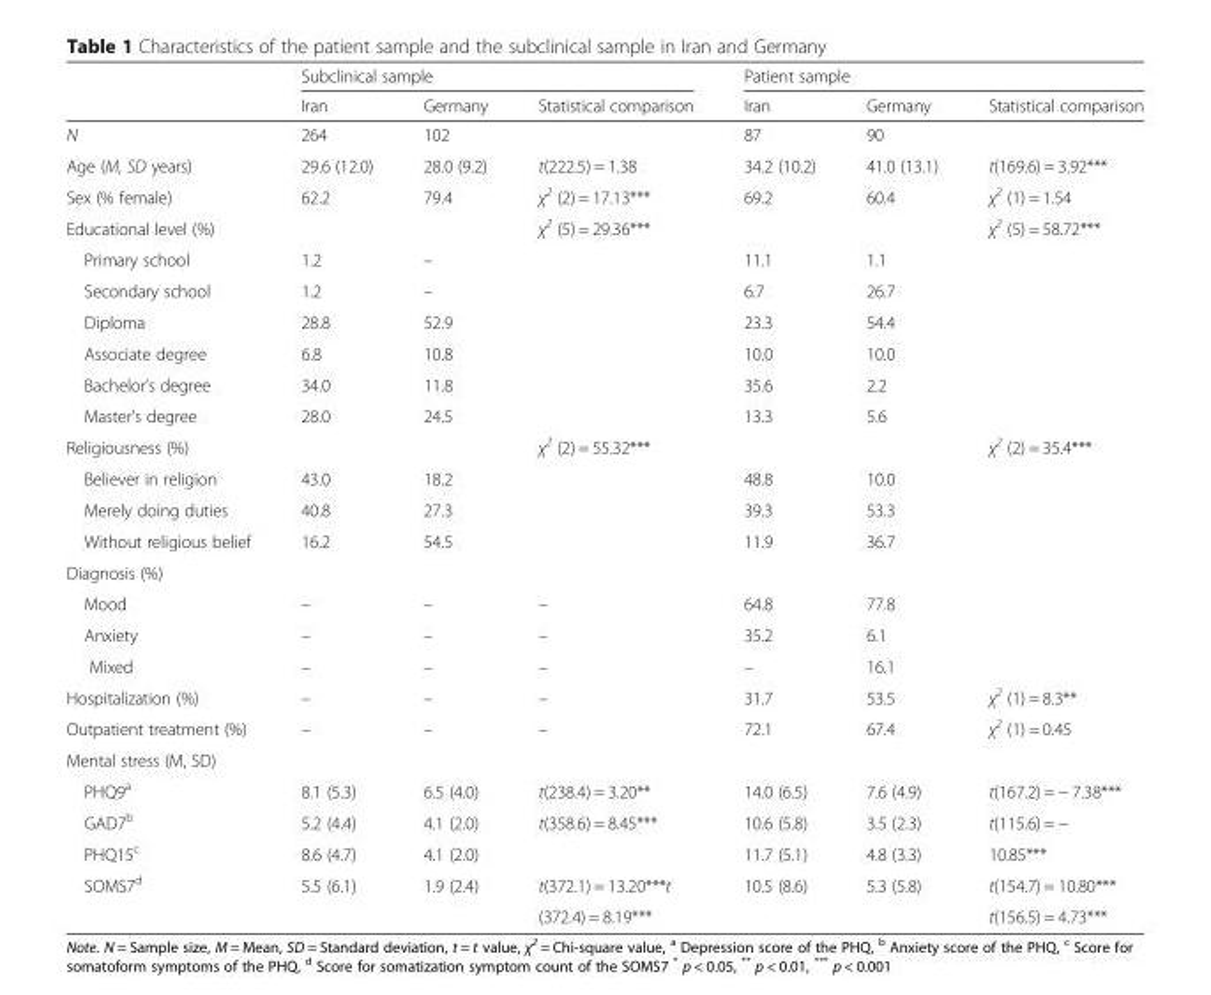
<table><thead><tr><td rowspan="2"></td><td colspan="3">Subclinical sample</td><td colspan="3">Patient sample</td></tr><tr><td>Iran</td><td>Germany</td><td>Statistical comparison</td><td>Iran</td><td>Germany</td><td>Statistical comparison</td></tr></thead><tbody><tr><td>N</td><td>264</td><td>102</td><td></td><td>87</td><td>90</td><td></td></tr><tr><td>Age (M, SD years)</td><td>29.6 (12.0)</td><td>28.0 (9.2)</td><td>t(222.5) = 1.38</td><td>34.2 (10.2)</td><td>41.0 (13.1)</td><td>t(169.6) = 3.92***</td></tr><tr><td>Sex (% female)</td><td>62.2</td><td>79.4</td><td>χ<sup>2</sup> (2) = 17.13***</td><td>69.2</td><td>60.4</td><td>χ<sup>2</sup> (1) = 1.54</td></tr><tr><td>Educational level (%)</td><td></td><td></td><td>χ<sup>2</sup> (5) = 29.36***</td><td></td><td></td><td>χ<sup>2</sup> (5) = 58.72***</td></tr><tr><td>Primary school</td><td>1.2</td><td>–</td><td></td><td>11.1</td><td>1.1</td><td></td></tr><tr><td>Secondary school</td><td>1.2</td><td>–</td><td></td><td>6.7</td><td>26.7</td><td></td></tr><tr><td>Diploma</td><td>28.8</td><td>52.9</td><td></td><td>23.3</td><td>54.4</td><td></td></tr><tr><td>Associate degree</td><td>6.8</td><td>10.8</td><td></td><td>10.0</td><td>10.0</td><td></td></tr><tr><td>Bachelor’s degree</td><td>34.0</td><td>11.8</td><td></td><td>35.6</td><td>2.2</td><td></td></tr><tr><td>Master’s degree</td><td>28.0</td><td>24.5</td><td></td><td>13.3</td><td>5.6</td><td></td></tr><tr><td>Religiousness (%)</td><td></td><td></td><td>χ<sup>2</sup> (2) = 55.32***</td><td></td><td></td><td>χ<sup>2</sup> (2) = 35.4***</td></tr><tr><td>Believer in religion</td><td>43.0</td><td>18.2</td><td></td><td>48.8</td><td>10.0</td><td></td></tr><tr><td>Merely doing duties</td><td>40.8</td><td>27.3</td><td></td><td>39.3</td><td>53.3</td><td></td></tr><tr><td>Without religious belief</td><td>16.2</td><td>54.5</td><td></td><td>11.9</td><td>36.7</td><td></td></tr><tr><td colspan="7">Diagnosis (%)</td></tr><tr><td>Mood</td><td>–</td><td>–</td><td>–</td><td>64.8</td><td>77.8</td><td></td></tr><tr><td>Anxiety</td><td>–</td><td>–</td><td>–</td><td>35.2</td><td>6.1</td><td></td></tr><tr><td>Mixed</td><td>–</td><td>–</td><td>–</td><td>–</td><td>16.1</td><td></td></tr><tr><td>Hospitalization (%)</td><td>–</td><td>–</td><td>–</td><td>31.7</td><td>53.5</td><td>χ<sup>2</sup> (1) = 8.3**</td></tr><tr><td>Outpatient treatment (%)</td><td>–</td><td>–</td><td>–</td><td>72.1</td><td>67.4</td><td>χ<sup>2</sup> (1) = 0.45</td></tr><tr><td colspan="7">Mental stress (M, SD)</td></tr><tr><td>PHQ9<sup>a</sup></td><td>8.1 (5.3)</td><td>6.5 (4.0)</td><td>t(238.4) = 3.20**</td><td>14.0 (6.5)</td><td>7.6 (4.9)</td><td>t(167.2) = − 7.38***</td></tr><tr><td>GAD7<sup>b</sup></td><td>5.2 (4.4)</td><td>4.1 (2.0)</td><td>t(358.6) = 8.45***</td><td>10.6 (5.8)</td><td>3.5 (2.3)</td><td>t(115.6) = −</td></tr><tr><td>PHQ15<sup>c</sup></td><td>8.6 (4.7)</td><td>4.1 (2.0)</td><td></td><td>11.7 (5.1)</td><td>4.8 (3.3)</td><td>10.85***</td></tr><tr><td rowspan="2">SOMS7<sup>d</sup></td><td rowspan="2">5.5 (6.1)</td><td rowspan="2">1.9 (2.4)</td><td>t(372.1) = 13.20***t</td><td>10.5 (8.6)</td><td>5.3 (5.8)</td><td>t(154.7) = 10.80***</td></tr><tr><td>(372.4) = 8.19***</td><td></td><td></td><td>t(156.5) = 4.73***</td></tr></tbody></table>